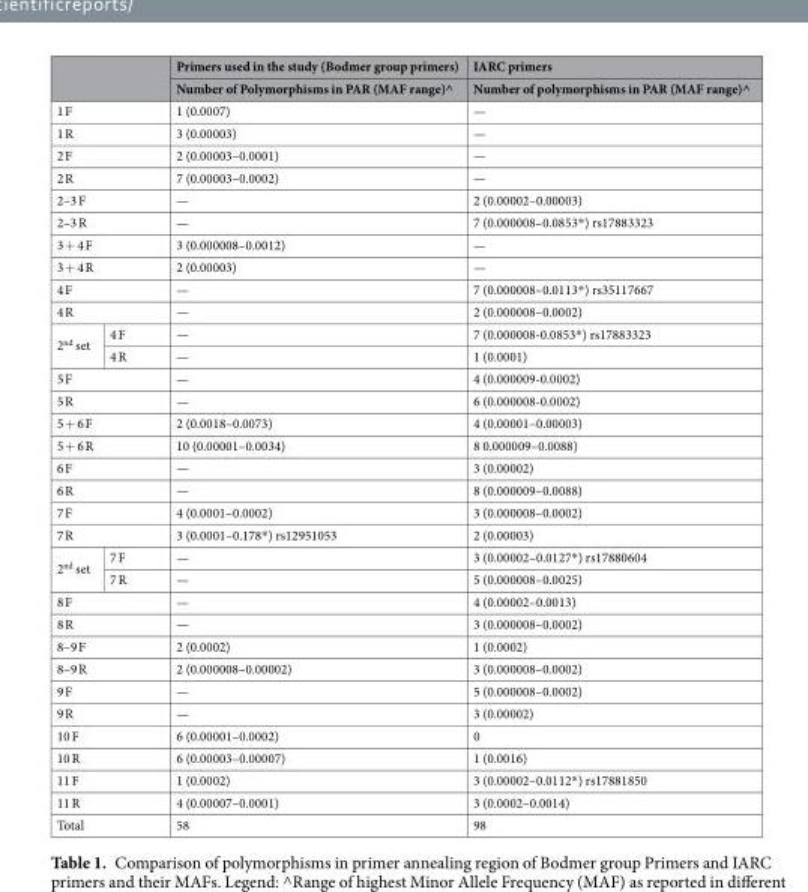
<table><thead><tr><td rowspan="2"></td><td rowspan="2"></td><td rowspan="2">Primers used in the study (Bodmer group primers) Number of Polymorphisms in PAR (MAF range)^</td><td rowspan="2">IARC primers Number of polymorphisms in PAR (MAF range)^</td></tr><tr></tr></thead><tbody><tr><td colspan="2">1 F</td><td>1 (0.0007)</td><td>—</td></tr><tr><td colspan="2">1 R</td><td>3 (0.00003)</td><td>—</td></tr><tr><td colspan="2">2 F</td><td>2 (0.00003–0.0001)</td><td>—</td></tr><tr><td colspan="2">2 R</td><td>7 (0.00003–0.0002)</td><td>—</td></tr><tr><td colspan="2">2–3 F</td><td>—</td><td>2 (0.00002–0.00003)</td></tr><tr><td colspan="2">2–3 R</td><td>—</td><td>7 (0.000008–0.0853*) rs17883323</td></tr><tr><td colspan="2">3 + 4 F</td><td>3 (0.000008–0.0012)</td><td>—</td></tr><tr><td colspan="2">3 + 4 R</td><td>2 (0.00003)</td><td>—</td></tr><tr><td colspan="2">4 F</td><td>—</td><td>7 (0.000008–0.0113*) rs35117667</td></tr><tr><td colspan="2">4 R</td><td>—</td><td>2 (0.000008–0.0002)</td></tr><tr><td rowspan="2">2<sup>nd</sup> set</td><td>4 F</td><td>—</td><td>7 (0.000008-0.0853*) rs17883323</td></tr><tr><td>4 R</td><td>—</td><td>1 (0.0001)</td></tr><tr><td colspan="2">5 F</td><td>—</td><td>4 (0.000009-0.0002)</td></tr><tr><td colspan="2">5 R</td><td>—</td><td>6 (0.000008-0.0002)</td></tr><tr><td colspan="2">5 + 6 F</td><td>2 (0.0018–0.0073)</td><td>4 (0.00001–0.00003)</td></tr><tr><td colspan="2">5 + 6 R</td><td>10 (0.00001–0.0034)</td><td>8 0.000009–0.0088)</td></tr><tr><td colspan="2">6 F</td><td>—</td><td>3 (0.00002)</td></tr><tr><td colspan="2">6 R</td><td>—</td><td>8 (0.000009–0.0088)</td></tr><tr><td colspan="2">7 F</td><td>4 (0.0001–0.0002)</td><td>3 (0.000008–0.0002)</td></tr><tr><td colspan="2">7 R</td><td>3 (0.0001–0.178*) rs12951053</td><td>2 (0.00003)</td></tr><tr><td rowspan="2">2<sup>nd</sup> set</td><td>7 F</td><td>—</td><td>3 (0.00002–0.0127*) rs17880604</td></tr><tr><td>7 R</td><td>—</td><td>5 (0.000008–0.0025)</td></tr><tr><td colspan="2">8 F</td><td>—</td><td>4 (0.00002–0.0013)</td></tr><tr><td colspan="2">8 R</td><td>—</td><td>3 (0.000008–0.0002)</td></tr><tr><td colspan="2">8–9 F</td><td>2 (0.0002)</td><td>1 (0.0002)</td></tr><tr><td colspan="2">8–9 R</td><td>2 (0.000008–0.00002)</td><td>3 (0.000008–0.0002)</td></tr><tr><td colspan="2">9 F</td><td>—</td><td>5 (0.000008–0.0002)</td></tr><tr><td colspan="2">9 R</td><td>—</td><td>3 (0.00002)</td></tr><tr><td colspan="2">10 F</td><td>6 (0.00001–0.0002)</td><td>0</td></tr><tr><td colspan="2">10 R</td><td>6 (0.00003–0.00007)</td><td>1 (0.0016)</td></tr><tr><td colspan="2">11 F</td><td>1 (0.0002)</td><td>3 (0.00002–0.0112*) rs17881850</td></tr><tr><td colspan="2">11 R</td><td>4 (0.00007–0.0001)</td><td>3 (0.0002–0.0014)</td></tr><tr><td colspan="2">Total</td><td>58</td><td>98</td></tr></tbody></table>